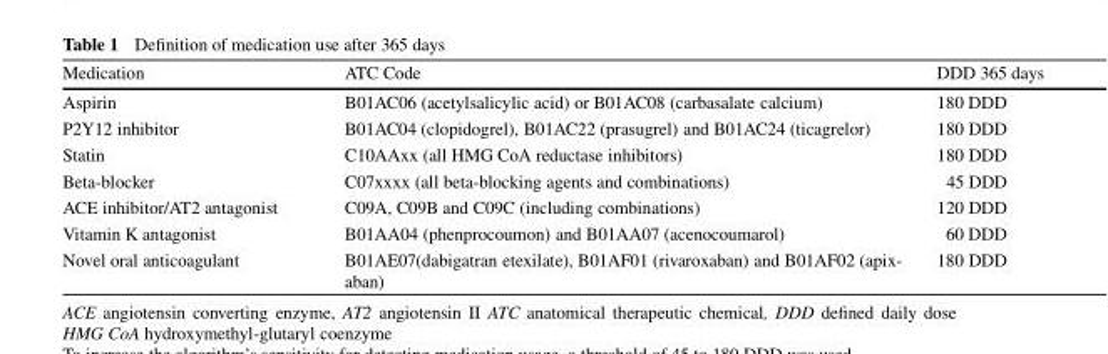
<table><thead><tr><td>Medication</td><td>ATC Code</td><td>DDD 365 days</td></tr></thead><tbody><tr><td>Aspirin</td><td>B01AC06 (acetylsalicylic acid) or B01AC08 (carbasalate calcium)</td><td>180 DDD</td></tr><tr><td>P2Y12 inhibitor</td><td>B01AC04 (clopidogrel), B01AC22 (prasugrel) and B01AC24 (ticagrelor)</td><td>180 DDD</td></tr><tr><td>Statin</td><td>C10AAxx (all HMG CoA reductase inhibitors)</td><td>180 DDD</td></tr><tr><td>Beta-blocker</td><td>C07xxxx (all beta-blocking agents and combinations)</td><td>45 DDD</td></tr><tr><td>ACE inhibitor/AT2 antagonist</td><td>C09A, C09B and C09C (including combinations)</td><td>120 DDD</td></tr><tr><td>Vitamin K antagonist</td><td>B01AA04 (phenprocoumon) and B01AA07 (acenocoumarol)</td><td>60 DDD</td></tr><tr><td>Novel oral anticoagulant</td><td>B01AE07(dabigatran etexilate), B01AF01 (rivaroxaban) and B01AF02 (apix- aban)</td><td>180 DDD</td></tr></tbody></table>